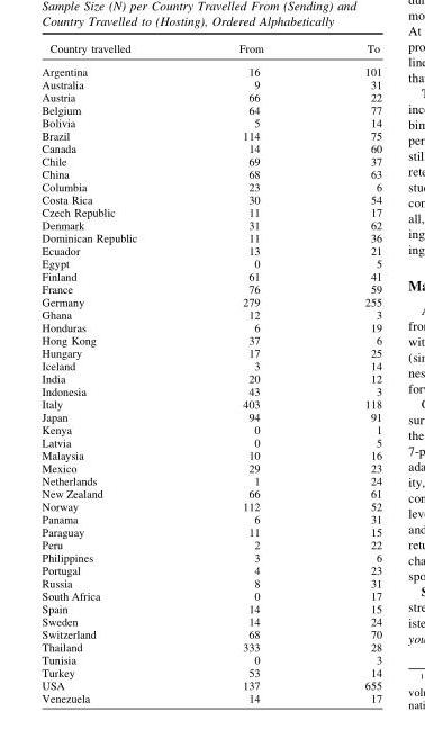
<table><thead><tr><td>Country travelled</td><td>From</td><td>To</td></tr></thead><tbody><tr><td>Argentina</td><td>16</td><td>101</td></tr><tr><td>Australia</td><td>9</td><td>31</td></tr><tr><td>Austria</td><td>66</td><td>22</td></tr><tr><td>Belgium</td><td>64</td><td>77</td></tr><tr><td>Bolivia</td><td>5</td><td>14</td></tr><tr><td>Brazil</td><td>114</td><td>75</td></tr><tr><td>Canada</td><td>14</td><td>60</td></tr><tr><td>Chile</td><td>69</td><td>37</td></tr><tr><td>China</td><td>68</td><td>63</td></tr><tr><td>Columbia</td><td>23</td><td>6</td></tr><tr><td>Costa Rica</td><td>30</td><td>54</td></tr><tr><td>Czech Republic</td><td>11</td><td>17</td></tr><tr><td>Denmark</td><td>31</td><td>62</td></tr><tr><td>Dominican Republic</td><td>11</td><td>36</td></tr><tr><td>Ecuador</td><td>13</td><td>21</td></tr><tr><td>Egypt</td><td>0</td><td>5</td></tr><tr><td>Finland</td><td>61</td><td>41</td></tr><tr><td>France</td><td>76</td><td>59</td></tr><tr><td>Germany</td><td>279</td><td>255</td></tr><tr><td>Ghana</td><td>12</td><td>3</td></tr><tr><td>Honduras</td><td>6</td><td>19</td></tr><tr><td>Hong Kong</td><td>37</td><td>6</td></tr><tr><td>Hungary</td><td>17</td><td>25</td></tr><tr><td>Iceland</td><td>3</td><td>14</td></tr><tr><td>India</td><td>20</td><td>12</td></tr><tr><td>Indonesia</td><td>43</td><td>3</td></tr><tr><td>Italy</td><td>403</td><td>118</td></tr><tr><td>Japan</td><td>94</td><td>91</td></tr><tr><td>Kenya</td><td>0</td><td>1</td></tr><tr><td>Latvia</td><td>0</td><td>5</td></tr><tr><td>Malaysia</td><td>10</td><td>16</td></tr><tr><td>Mexico</td><td>29</td><td>23</td></tr><tr><td>Netherlands</td><td>1</td><td>24</td></tr><tr><td>New Zealand</td><td>66</td><td>61</td></tr><tr><td>Norway</td><td>112</td><td>52</td></tr><tr><td>Panama</td><td>6</td><td>31</td></tr><tr><td>Paraguay</td><td>11</td><td>15</td></tr><tr><td>Peru</td><td>2</td><td>22</td></tr><tr><td>Philippines</td><td>3</td><td>6</td></tr><tr><td>Portugal</td><td>4</td><td>23</td></tr><tr><td>Russia</td><td>8</td><td>31</td></tr><tr><td>South Africa</td><td>0</td><td>17</td></tr><tr><td>Spain</td><td>14</td><td>15</td></tr><tr><td>Sweden</td><td>14</td><td>24</td></tr><tr><td>Switzerland</td><td>68</td><td>70</td></tr><tr><td>Thailand</td><td>333</td><td>28</td></tr><tr><td>Tunisia</td><td>0</td><td>3</td></tr><tr><td>Turkey</td><td>53</td><td>14</td></tr><tr><td>USA</td><td>137</td><td>655</td></tr><tr><td>Venezuela</td><td>14</td><td>17</td></tr></tbody></table>